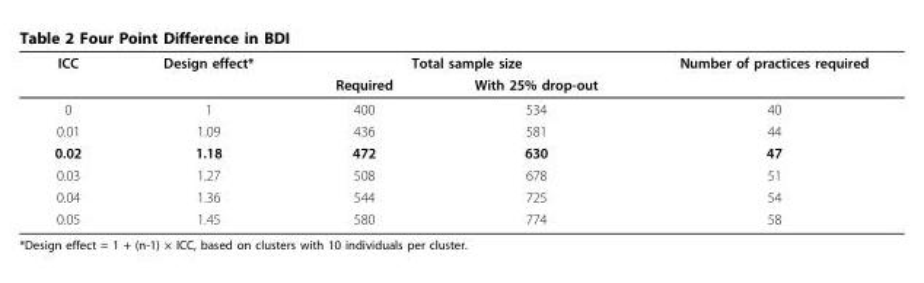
<table><thead><tr><td rowspan="2">ICC</td><td rowspan="2">Design effect*</td><td colspan="2">Total sample size</td><td rowspan="2">Number of practices required</td></tr><tr><td>Required</td><td>With 25% drop-out</td></tr></thead><tbody><tr><td>0</td><td>1</td><td>400</td><td>534</td><td>40</td></tr><tr><td>0.01</td><td>1.09</td><td>436</td><td>581</td><td>44</td></tr><tr><td>0.02</td><td>1.18</td><td>472</td><td>630</td><td>47</td></tr><tr><td>0.03</td><td>1.27</td><td>508</td><td>678</td><td>51</td></tr><tr><td>0.04</td><td>1.36</td><td>544</td><td>725</td><td>54</td></tr><tr><td>0.05</td><td>1.45</td><td>580</td><td>774</td><td>58</td></tr></tbody></table>